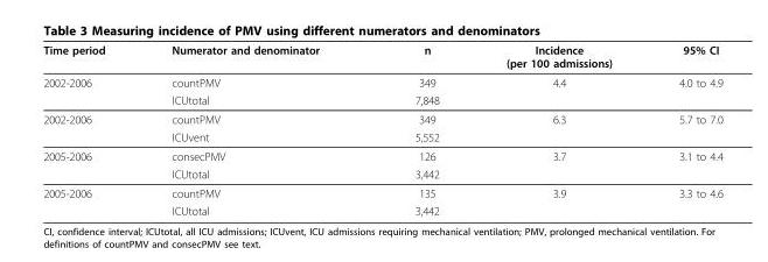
<table><thead><tr><td>Time period</td><td>Numerator and denominator</td><td>n</td><td>Incidence (per 100 admissions)</td><td>95% CI</td></tr></thead><tbody><tr><td rowspan="2">2002-2006</td><td>countPMV</td><td>349</td><td>4.4</td><td>4.0 to 4.9</td></tr><tr><td>ICUtotal</td><td>7,848</td><td></td><td></td></tr><tr><td rowspan="2">2002-2006</td><td>countPMV</td><td>349</td><td>6.3</td><td>5.7 to 7.0</td></tr><tr><td>ICUvent</td><td>5,552</td><td></td><td></td></tr><tr><td rowspan="2">2005-2006</td><td>consecPMV</td><td>126</td><td>3.7</td><td>3.1 to 4.4</td></tr><tr><td>ICUtotal</td><td>3,442</td><td></td><td></td></tr><tr><td rowspan="2">2005-2006</td><td>countPMV</td><td>135</td><td>3.9</td><td>3.3 to 4.6</td></tr><tr><td>ICUtotal</td><td>3,442</td><td></td><td></td></tr></tbody></table>